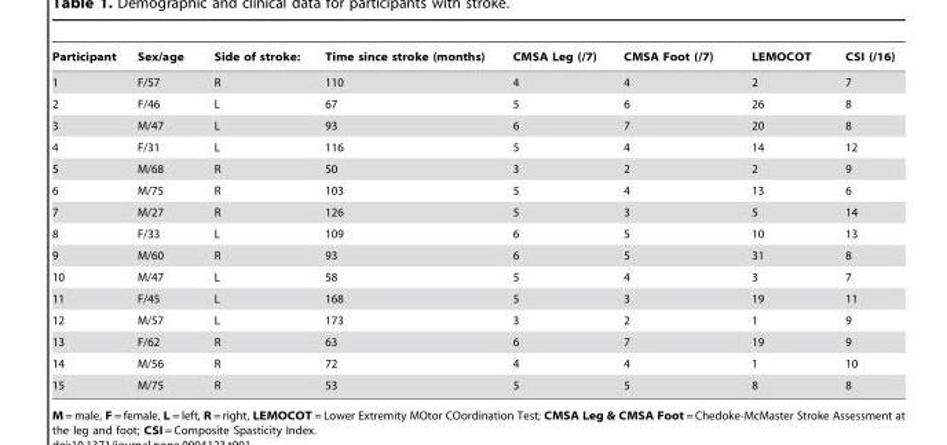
<table><thead><tr><td>Participant</td><td>Sex/age</td><td>Side of stroke:</td><td>Time since stroke (months)</td><td>CMSA Leg (/7)</td><td>CMSA Foot (/7)</td><td>LEMOCOT</td><td>CSI (/16)</td></tr></thead><tbody><tr><td>1</td><td>F/57</td><td>R</td><td>110</td><td>4</td><td>4</td><td>2</td><td>7</td></tr><tr><td>2</td><td>F/46</td><td>L</td><td>67</td><td>5</td><td>6</td><td>26</td><td>8</td></tr><tr><td>3</td><td>M/47</td><td>L</td><td>93</td><td>6</td><td>7</td><td>20</td><td>8</td></tr><tr><td>4</td><td>F/31</td><td>L</td><td>116</td><td>5</td><td>4</td><td>14</td><td>12</td></tr><tr><td>5</td><td>M/68</td><td>R</td><td>50</td><td>3</td><td>2</td><td>2</td><td>9</td></tr><tr><td>6</td><td>M/75</td><td>R</td><td>103</td><td>5</td><td>4</td><td>13</td><td>6</td></tr><tr><td>7</td><td>M/27</td><td>R</td><td>126</td><td>5</td><td>3</td><td>5</td><td>14</td></tr><tr><td>8</td><td>F/33</td><td>L</td><td>109</td><td>6</td><td>5</td><td>10</td><td>13</td></tr><tr><td>9</td><td>M/60</td><td>R</td><td>93</td><td>6</td><td>5</td><td>31</td><td>8</td></tr><tr><td>10</td><td>M/47</td><td>L</td><td>58</td><td>5</td><td>4</td><td>3</td><td>7</td></tr><tr><td>11</td><td>F/45</td><td>L</td><td>168</td><td>5</td><td>3</td><td>19</td><td>11</td></tr><tr><td>12</td><td>M/57</td><td>L</td><td>173</td><td>3</td><td>2</td><td>1</td><td>9</td></tr><tr><td>13</td><td>F/62</td><td>R</td><td>63</td><td>6</td><td>7</td><td>19</td><td>9</td></tr><tr><td>14</td><td>M/56</td><td>R</td><td>72</td><td>4</td><td>4</td><td>1</td><td>10</td></tr><tr><td>15</td><td>M/75</td><td>R</td><td>53</td><td>5</td><td>5</td><td>8</td><td>8</td></tr></tbody></table>